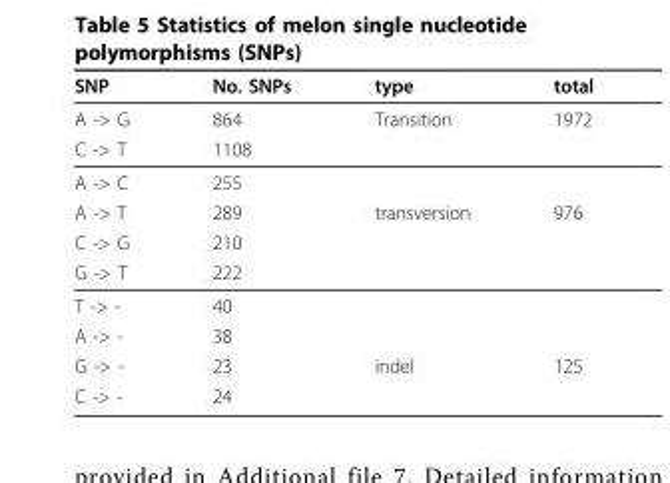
<table><thead><tr><td>SNP</td><td>No. SNPs</td><td>type</td><td>total</td></tr></thead><tbody><tr><td>A -&gt; G</td><td>864</td><td>Transition</td><td>1972</td></tr><tr><td>C -&gt; T</td><td>1108</td><td></td><td></td></tr><tr><td>A -&gt; C</td><td>255</td><td></td><td></td></tr><tr><td>A -&gt; T</td><td>289</td><td>transversion</td><td>976</td></tr><tr><td>C -&gt; G</td><td>210</td><td></td><td></td></tr><tr><td>G -&gt; T</td><td>222</td><td></td><td></td></tr><tr><td>T -&gt; -</td><td>40</td><td></td><td></td></tr><tr><td>A -&gt; -</td><td>38</td><td></td><td></td></tr><tr><td>G -&gt; -</td><td>23</td><td>indel</td><td>125</td></tr><tr><td>C -&gt; -</td><td>24</td><td></td><td></td></tr></tbody></table>